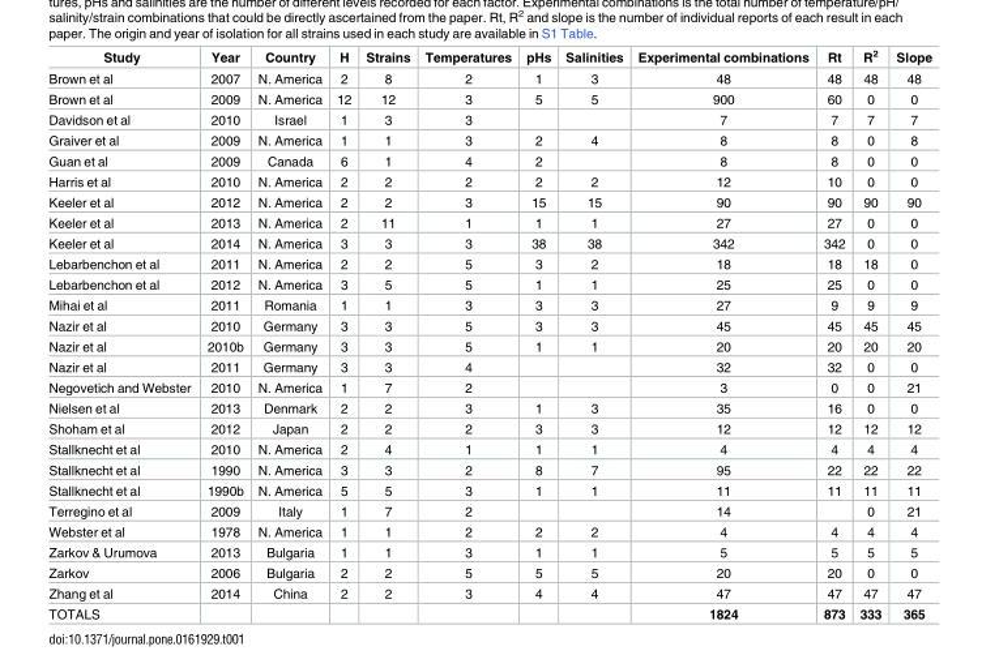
<table><thead><tr><td>Study</td><td>Year</td><td>Country</td><td>H</td><td>Strains</td><td>Temperatures</td><td>pHs</td><td>Salinities</td><td>Experimental combinations</td><td>Rt</td><td>R<sup>2</sup></td><td>Slope</td></tr></thead><tbody><tr><td>Brown et al</td><td>2007</td><td>N. America</td><td>2</td><td>8</td><td>2</td><td>1</td><td>3</td><td>48</td><td>48</td><td>48</td><td>48</td></tr><tr><td>Brown et al</td><td>2009</td><td>N. America</td><td>12</td><td>12</td><td>3</td><td>5</td><td>5</td><td>900</td><td>60</td><td>0</td><td>0</td></tr><tr><td>Davidson et al</td><td>2010</td><td>Israel</td><td>1</td><td>3</td><td>3</td><td></td><td></td><td>7</td><td>7</td><td>7</td><td>7</td></tr><tr><td>Graiver et al</td><td>2009</td><td>N. America</td><td>1</td><td>1</td><td>3</td><td>2</td><td>4</td><td>8</td><td>8</td><td>0</td><td>8</td></tr><tr><td>Guan et al</td><td>2009</td><td>Canada</td><td>6</td><td>1</td><td>4</td><td>2</td><td></td><td>8</td><td>8</td><td>0</td><td>0</td></tr><tr><td>Harris et al</td><td>2010</td><td>N. America</td><td>2</td><td>2</td><td>2</td><td>2</td><td>2</td><td>12</td><td>10</td><td>0</td><td>0</td></tr><tr><td>Keeler et al</td><td>2012</td><td>N. America</td><td>2</td><td>2</td><td>3</td><td>15</td><td>15</td><td>90</td><td>90</td><td>90</td><td>90</td></tr><tr><td>Keeler et al</td><td>2013</td><td>N. America</td><td>2</td><td>11</td><td>1</td><td>1</td><td>1</td><td>27</td><td>27</td><td>0</td><td>0</td></tr><tr><td>Keeler et al</td><td>2014</td><td>N. America</td><td>3</td><td>3</td><td>3</td><td>38</td><td>38</td><td>342</td><td>342</td><td>0</td><td>0</td></tr><tr><td>Lebarbenchon et al</td><td>2011</td><td>N. America</td><td>2</td><td>2</td><td>5</td><td>3</td><td>2</td><td>18</td><td>18</td><td>18</td><td>0</td></tr><tr><td>Lebarbenchon et al</td><td>2012</td><td>N. America</td><td>3</td><td>5</td><td>5</td><td>1</td><td>1</td><td>25</td><td>25</td><td>0</td><td>0</td></tr><tr><td>Mihai et al</td><td>2011</td><td>Romania</td><td>1</td><td>1</td><td>3</td><td>3</td><td>3</td><td>27</td><td>9</td><td>9</td><td>9</td></tr><tr><td>Nazir et al</td><td>2010</td><td>Germany</td><td>3</td><td>3</td><td>5</td><td>3</td><td>3</td><td>45</td><td>45</td><td>45</td><td>45</td></tr><tr><td>Nazir et al</td><td>2010b</td><td>Germany</td><td>3</td><td>3</td><td>5</td><td>1</td><td>1</td><td>20</td><td>20</td><td>20</td><td>20</td></tr><tr><td>Nazir et al</td><td>2011</td><td>Germany</td><td>3</td><td>3</td><td>4</td><td></td><td></td><td>32</td><td>32</td><td>0</td><td>0</td></tr><tr><td>Negovetich and Webster</td><td>2010</td><td>N. America</td><td>1</td><td>7</td><td>2</td><td></td><td></td><td>3</td><td>0</td><td>0</td><td>21</td></tr><tr><td>Nielsen et al</td><td>2013</td><td>Denmark</td><td>2</td><td>2</td><td>3</td><td>1</td><td>3</td><td>35</td><td>16</td><td>0</td><td>0</td></tr><tr><td>Shoham et al</td><td>2012</td><td>Japan</td><td>2</td><td>2</td><td>2</td><td>3</td><td>3</td><td>12</td><td>12</td><td>12</td><td>12</td></tr><tr><td>Stallknecht et al</td><td>2010</td><td>N. America</td><td>2</td><td>4</td><td>1</td><td>1</td><td>1</td><td>4</td><td>4</td><td>4</td><td>4</td></tr><tr><td>Stallknecht et al</td><td>1990</td><td>N. America</td><td>3</td><td>3</td><td>2</td><td>8</td><td>7</td><td>95</td><td>22</td><td>22</td><td>22</td></tr><tr><td>Stallknecht et al</td><td>1990b</td><td>N. America</td><td>5</td><td>5</td><td>3</td><td>1</td><td>1</td><td>11</td><td>11</td><td>11</td><td>11</td></tr><tr><td>Terregino et al</td><td>2009</td><td>Italy</td><td>1</td><td>7</td><td>2</td><td></td><td></td><td>14</td><td></td><td>0</td><td>21</td></tr><tr><td>Webster et al</td><td>1978</td><td>N. America</td><td>1</td><td>1</td><td>2</td><td>2</td><td>2</td><td>4</td><td>4</td><td>4</td><td>4</td></tr><tr><td>Zarkov &amp; Urumova</td><td>2013</td><td>Bulgaria</td><td>1</td><td>1</td><td>3</td><td>1</td><td>1</td><td>5</td><td>5</td><td>5</td><td>5</td></tr><tr><td>Zarkov</td><td>2006</td><td>Bulgaria</td><td>2</td><td>2</td><td>5</td><td>5</td><td>5</td><td>20</td><td>20</td><td>0</td><td>0</td></tr><tr><td>Zhang et al</td><td>2014</td><td>China</td><td>2</td><td>2</td><td>3</td><td>4</td><td>4</td><td>47</td><td>47</td><td>47</td><td>47</td></tr><tr><td>TOTALS</td><td></td><td></td><td></td><td></td><td></td><td></td><td></td><td>1824</td><td>873</td><td>333</td><td>365</td></tr></tbody></table>